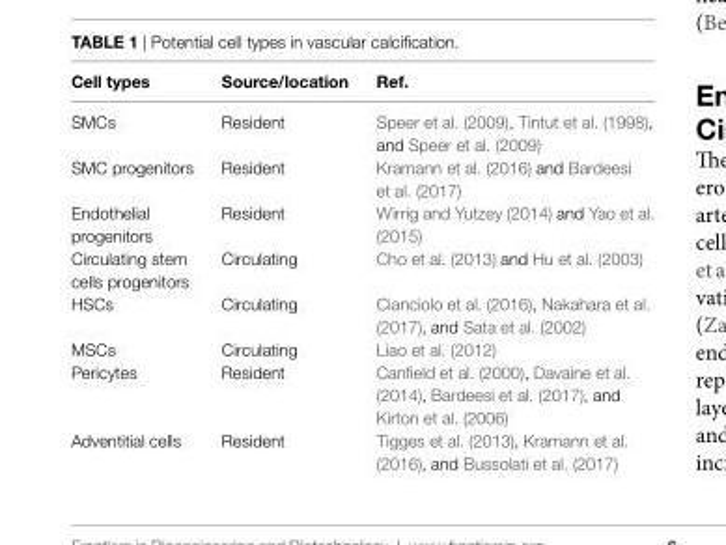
<table><thead><tr><td>Cell types</td><td>Source/location</td><td>Ref.</td></tr></thead><tbody><tr><td>SMCs</td><td>Resident</td><td>Speer et al. (2009), Tintut et al. (1998), and Speer et al. (2009)</td></tr><tr><td>SMC progenitors</td><td>Resident</td><td>Kramann et al. (2016) and Bardeesi et al. (2017)</td></tr><tr><td>Endothelial progenitors</td><td>Resident</td><td>Wirrig and Yutzey (2014) and Yao et al. (2015)</td></tr><tr><td>Circulating stem cells progenitors</td><td>Circulating</td><td>Cho et al. (2013) and Hu et al. (2003)</td></tr><tr><td>HSCs</td><td>Circulating</td><td>Cianciolo et al. (2016), Nakahara et al. (2017), and Sata et al. (2002)</td></tr><tr><td>MSCs</td><td>Circulating</td><td>Liao et al. (2012)</td></tr><tr><td>Pericytes</td><td>Resident</td><td>Canfield et al. (2000), Davaine et al. (2014), Bardeesi et al. (2017), and Kirton et al. (2006)</td></tr><tr><td>Adventitial cells</td><td>Resident</td><td>Tigges et al. (2013), Kramann et al. (2016), and Bussolati et al. (2017)</td></tr></tbody></table>